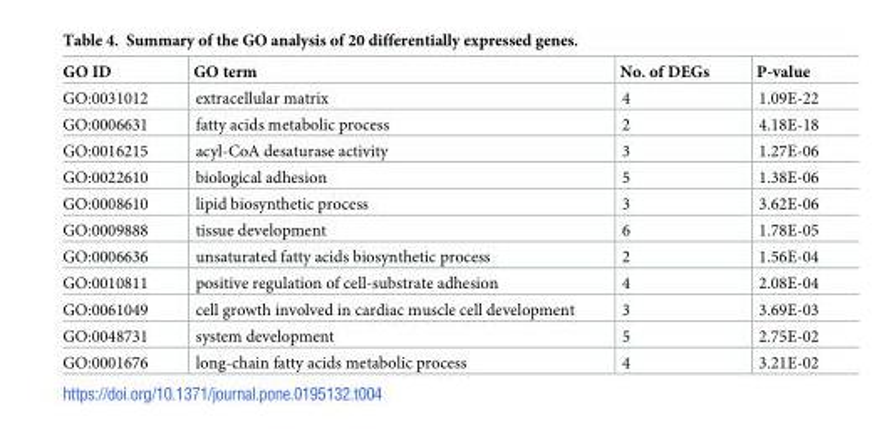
<table><thead><tr><td>GO ID</td><td>GO term</td><td>No. of DEGs</td><td>P-value</td></tr></thead><tbody><tr><td>GO:0031012</td><td>extracellular matrix</td><td>4</td><td>1.09E-22</td></tr><tr><td>GO:0006631</td><td>fatty acids metabolic process</td><td>2</td><td>4.18E-18</td></tr><tr><td>GO:0016215</td><td>acyl-CoA desaturase activity</td><td>3</td><td>1.27E-06</td></tr><tr><td>GO:0022610</td><td>biological adhesion</td><td>5</td><td>1.38E-06</td></tr><tr><td>GO:0008610</td><td>lipid biosynthetic process</td><td>3</td><td>3.62E-06</td></tr><tr><td>GO:0009888</td><td>tissue development</td><td>6</td><td>1.78E-05</td></tr><tr><td>GO:0006636</td><td>unsaturated fatty acids biosynthetic process</td><td>2</td><td>1.56E-04</td></tr><tr><td>GO:0010811</td><td>positive regulation of cell-substrate adhesion</td><td>4</td><td>2.08E-04</td></tr><tr><td>GO:0061049</td><td>cell growth involved in cardiac muscle cell development</td><td>3</td><td>3.69E-03</td></tr><tr><td>GO:0048731</td><td>system development</td><td>5</td><td>2.75E-02</td></tr><tr><td>GO:0001676</td><td>long-chain fatty acids metabolic process</td><td>4</td><td>3.21E-02</td></tr></tbody></table>